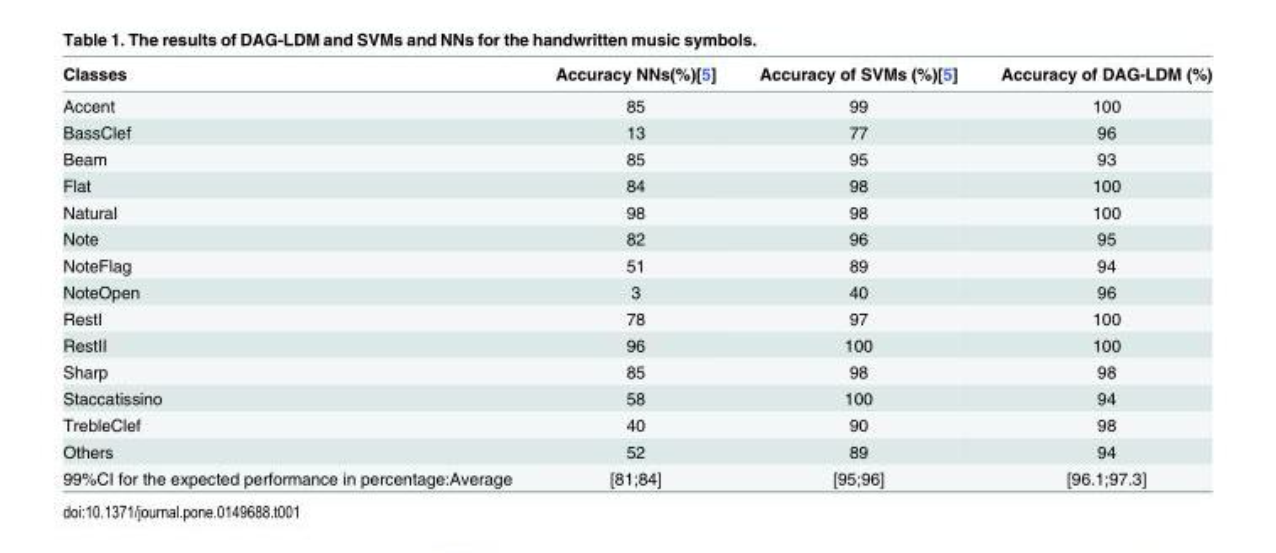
<table><thead><tr><td>Classes</td><td>Accuracy NNs(%)[5]</td><td>Accuracy of SVMs (%)[5]</td><td>Accuracy of DAG-LDM (%)</td></tr></thead><tbody><tr><td>Accent</td><td>85</td><td>99</td><td>100</td></tr><tr><td>BassClef</td><td>13</td><td>77</td><td>96</td></tr><tr><td>Beam</td><td>85</td><td>95</td><td>93</td></tr><tr><td>Flat</td><td>84</td><td>98</td><td>100</td></tr><tr><td>Natural</td><td>98</td><td>98</td><td>100</td></tr><tr><td>Note</td><td>82</td><td>96</td><td>95</td></tr><tr><td>NoteFlag</td><td>51</td><td>89</td><td>94</td></tr><tr><td>NoteOpen</td><td>3</td><td>40</td><td>96</td></tr><tr><td>RestI</td><td>78</td><td>97</td><td>100</td></tr><tr><td>RestII</td><td>96</td><td>100</td><td>100</td></tr><tr><td>Sharp</td><td>85</td><td>98</td><td>98</td></tr><tr><td>Staccatissino</td><td>58</td><td>100</td><td>94</td></tr><tr><td>TrebleClef</td><td>40</td><td>90</td><td>98</td></tr><tr><td>Others</td><td>52</td><td>89</td><td>94</td></tr><tr><td>99%CI for the expected performance in percentage:Average</td><td>[81;84]</td><td>[95;96]</td><td>[96.1;97.3]</td></tr></tbody></table>